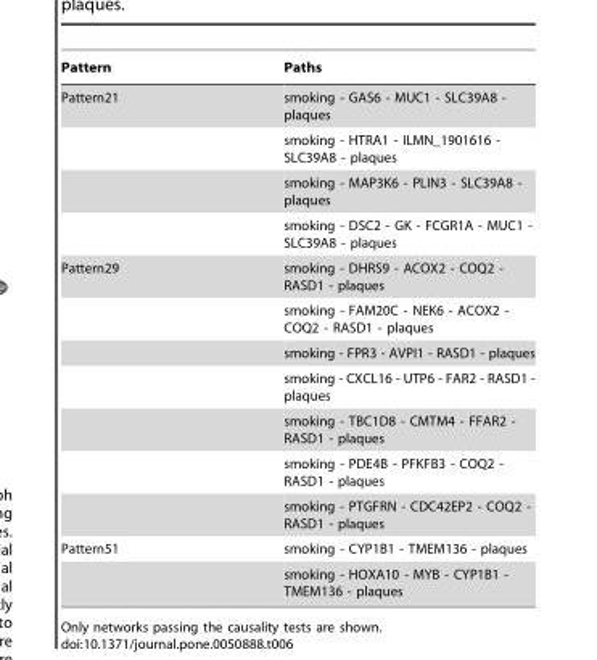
<table><thead><tr><td>Pattern</td><td>Paths</td></tr></thead><tbody><tr><td rowspan="4">Pattern21</td><td>smoking - GAS6 - MUC1 - SLC39A8 - plaques</td></tr><tr><td>smoking - HTRA1 - ILMN_1901616 - SLC39A8 - plaques</td></tr><tr><td>smoking - MAP3K6 - PLIN3 - SLC39A8 - plaques</td></tr><tr><td>smoking - DSC2 - GK - FCGR1A - MUC1 - SLC39A8 - plaques</td></tr><tr><td rowspan="7">Pattern29</td><td>smoking - DHRS9 - ACOX2 - COQ2 - RASD1 - plaques</td></tr><tr><td>smoking - FAM20C - NEK6 - ACOX2 - COQ2 - RASD1 - plaques</td></tr><tr><td>smoking - FPR3 - AVPI1 - RASD1 - plaques</td></tr><tr><td>smoking - CXCL16 - UTP6 - FAR2 - RASD1 - plaques</td></tr><tr><td>smoking - TBC1D8 - CMTM4 - FFAR2 - RASD1 - plaques</td></tr><tr><td>smoking - PDE4B - PFKFB3 - COQ2 - RASD1 - plaques</td></tr><tr><td>smoking - PTGFRN - CDC42EP2 - COQ2 - RASD1 - plaques</td></tr><tr><td rowspan="2">Pattern51</td><td>smoking - CYP1B1 - TMEM136 - plaques</td></tr><tr><td>smoking - HOXA10 - MYB - CYP1B1 - TMEM136 - plaques</td></tr></tbody></table>